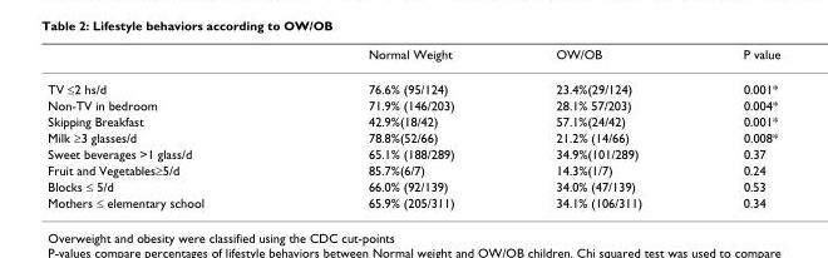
<table><thead><tr><td></td><td>Normal Weight</td><td>OW/OB</td><td>P value</td></tr></thead><tbody><tr><td>TV ≤2 hs/d</td><td>76.6% (95/124)</td><td>23.4%(29/124)</td><td>0.001*</td></tr><tr><td>Non-TV in bedroom</td><td>71.9% (146/203)</td><td>28.1% 57/203)</td><td>0.004*</td></tr><tr><td>Skipping Breakfast</td><td>42.9%(18/42)</td><td>57.1%(24/42)</td><td>0.001*</td></tr><tr><td>Milk ≥3 glasses/d</td><td>78.8%(52/66)</td><td>21.2% (14/66)</td><td>0.008*</td></tr><tr><td>Sweet beverages &gt;1 glass/d</td><td>65.1% (188/289)</td><td>34.9%(101/289)</td><td>0.37</td></tr><tr><td>Fruit and Vegetables≥5/d</td><td>85.7%(6/7)</td><td>14.3%(1/7)</td><td>0.24</td></tr><tr><td>Blocks ≤ 5/d</td><td>66.0% (92/139)</td><td>34.0% (47/139)</td><td>0.53</td></tr><tr><td>Mothers ≤ elementary school</td><td>65.9% (205/311)</td><td>34.1% (106/311)</td><td>0.34</td></tr></tbody></table>